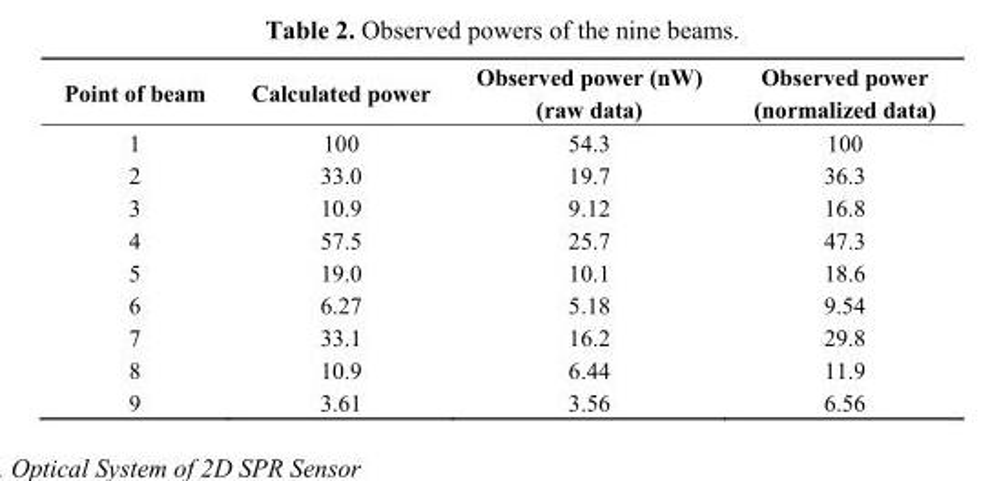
<table><thead><tr><td>Point of beam</td><td>Calculated power</td><td>Observed power (nW) (raw data)</td><td>Observed power (normalized data)</td></tr></thead><tbody><tr><td>1</td><td>100</td><td>54.3</td><td>100</td></tr><tr><td>2</td><td>33.0</td><td>19.7</td><td>36.3</td></tr><tr><td>3</td><td>10.9</td><td>9.12</td><td>16.8</td></tr><tr><td>4</td><td>57.5</td><td>25.7</td><td>47.3</td></tr><tr><td>5</td><td>19.0</td><td>10.1</td><td>18.6</td></tr><tr><td>6</td><td>6.27</td><td>5.18</td><td>9.54</td></tr><tr><td>7</td><td>33.1</td><td>16.2</td><td>29.8</td></tr><tr><td>8</td><td>10.9</td><td>6.44</td><td>11.9</td></tr><tr><td>9</td><td>3.61</td><td>3.56</td><td>6.56</td></tr></tbody></table>